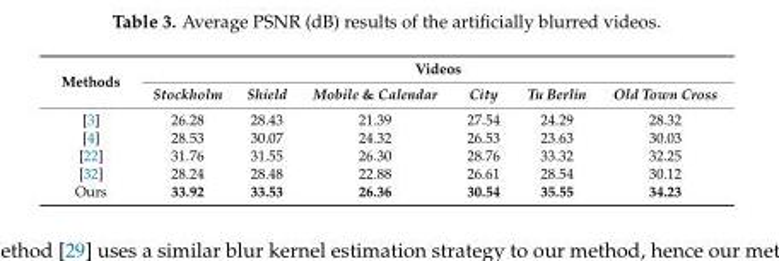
<table><thead><tr><td rowspan="2">Methods</td><td colspan="6">Videos</td></tr><tr><td>Stockholm</td><td>Shield</td><td>Mobile &amp; Calendar</td><td>City</td><td>Tu Berlin</td><td>Old Town Cross</td></tr></thead><tbody><tr><td>[3]</td><td>26.28</td><td>28.43</td><td>21.39</td><td>27.54</td><td>24.29</td><td>28.32</td></tr><tr><td>[4]</td><td>28.53</td><td>30.07</td><td>24.32</td><td>26.53</td><td>23.63</td><td>30.03</td></tr><tr><td>[22]</td><td>31.76</td><td>31.55</td><td>26.30</td><td>28.76</td><td>33.32</td><td>32.25</td></tr><tr><td>[32]</td><td>28.24</td><td>28.48</td><td>22.88</td><td>26.61</td><td>28.54</td><td>30.12</td></tr><tr><td>Ours</td><td>33.92</td><td>33.53</td><td>26.36</td><td>30.54</td><td>35.55</td><td>34.23</td></tr></tbody></table>